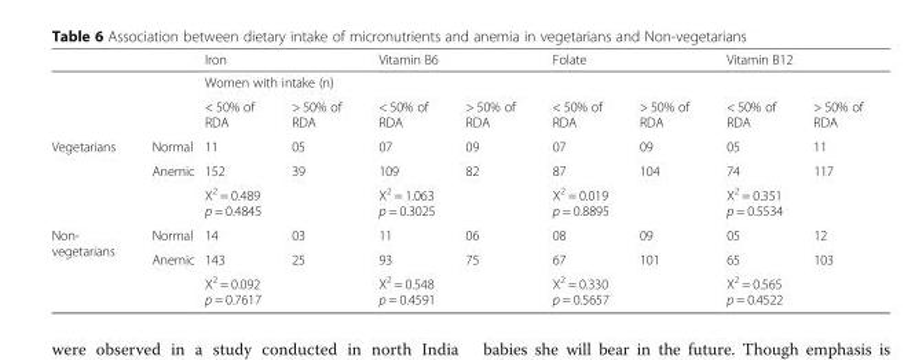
<table><thead><tr><td rowspan="3"></td><td rowspan="3"></td><td colspan="2">Iron</td><td colspan="2">Vitamin B6</td><td colspan="2">Folate</td><td colspan="2">Vitamin B12</td></tr><tr><td colspan="8">Women with intake (n)</td></tr><tr><td>&lt; 50% of RDA</td><td>&gt; 50% of RDA</td><td>&lt; 50% of RDA</td><td>&gt; 50% of RDA</td><td>&lt; 50% of RDA</td><td>&gt; 50% of RDA</td><td>&lt; 50% of RDA</td><td>&gt; 50% of RDA</td></tr></thead><tbody><tr><td rowspan="3">Vegetarians</td><td>Normal</td><td>11</td><td>05</td><td>07</td><td>09</td><td>07</td><td>09</td><td>05</td><td>11</td></tr><tr><td>Anemic</td><td>152</td><td>39</td><td>109</td><td>82</td><td>87</td><td>104</td><td>74</td><td>117</td></tr><tr><td></td><td colspan="2">X<sup>2</sup> = 0.489 p = 0.4845</td><td colspan="2">X<sup>2</sup> = 1.063 p = 0.3025</td><td colspan="2">X<sup>2</sup> = 0.019 p = 0.8895</td><td colspan="2">X<sup>2</sup> = 0.351 p = 0.5534</td></tr><tr><td rowspan="3">Non- vegetarians</td><td>Normal</td><td>14</td><td>03</td><td>11</td><td>06</td><td>08</td><td>09</td><td>05</td><td>12</td></tr><tr><td>Anemic</td><td>143</td><td>25</td><td>93</td><td>75</td><td>67</td><td>101</td><td>65</td><td>103</td></tr><tr><td></td><td colspan="2">X<sup>2</sup> = 0.092 p = 0.7617</td><td colspan="2">X<sup>2</sup> = 0.548 p = 0.4591</td><td colspan="2">X<sup>2</sup> = 0.330 p = 0.5657</td><td colspan="2">X<sup>2</sup> = 0.565 p = 0.4522</td></tr></tbody></table>